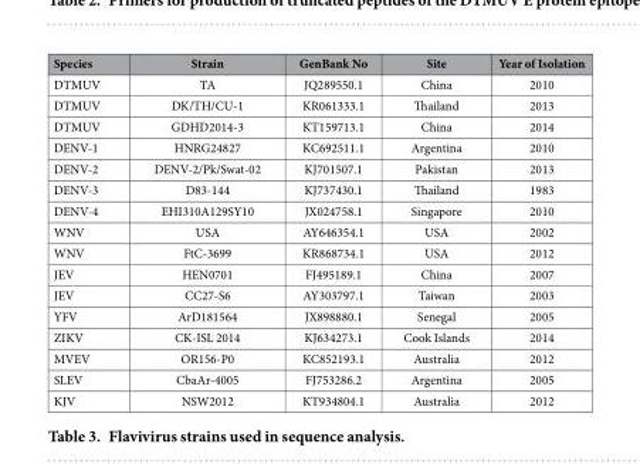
<table><thead><tr><td>Species</td><td>Strain</td><td>GenBank No</td><td>Site</td><td>Year of Isolation</td></tr></thead><tbody><tr><td>DTMUV</td><td>TA</td><td>JQ289550.1</td><td>China</td><td>2010</td></tr><tr><td>DTMUV</td><td>DK/TH/CU-1</td><td>KR061333.1</td><td>Thailand</td><td>2013</td></tr><tr><td>DTMUV</td><td>GDHD2014-3</td><td>KT159713.1</td><td>China</td><td>2014</td></tr><tr><td>DENV-1</td><td>HNRG24827</td><td>KC692511.1</td><td>Argentina</td><td>2010</td></tr><tr><td>DENV-2</td><td>DENV-2/Pk/Swat-02</td><td>KJ701507.1</td><td>Pakistan</td><td>2013</td></tr><tr><td>DENV-3</td><td>D83-144</td><td>KJ737430.1</td><td>Thailand</td><td>1983</td></tr><tr><td>DENV-4</td><td>EHI310A129SY10</td><td>JX024758.1</td><td>Singapore</td><td>2010</td></tr><tr><td>WNV</td><td>USA</td><td>AY646354.1</td><td>USA</td><td>2002</td></tr><tr><td>WNV</td><td>FtC-3699</td><td>KR868734.1</td><td>USA</td><td>2012</td></tr><tr><td>JEV</td><td>HEN0701</td><td>FJ495189.1</td><td>China</td><td>2007</td></tr><tr><td>JEV</td><td>CC27-S6</td><td>AY303797.1</td><td>Taiwan</td><td>2003</td></tr><tr><td>YFV</td><td>ArD181564</td><td>JX898880.1</td><td>Senegal</td><td>2005</td></tr><tr><td>ZIKV</td><td>CK-ISL 2014</td><td>KJ634273.1</td><td>Cook Islands</td><td>2014</td></tr><tr><td>MVEV</td><td>OR156-P0</td><td>KC852193.1</td><td>Australia</td><td>2012</td></tr><tr><td>SLEV</td><td>CbaAr-4005</td><td>FJ753286.2</td><td>Argentina</td><td>2005</td></tr><tr><td>KJV</td><td>NSW2012</td><td>KT934804.1</td><td>Australia</td><td>2012</td></tr></tbody></table>